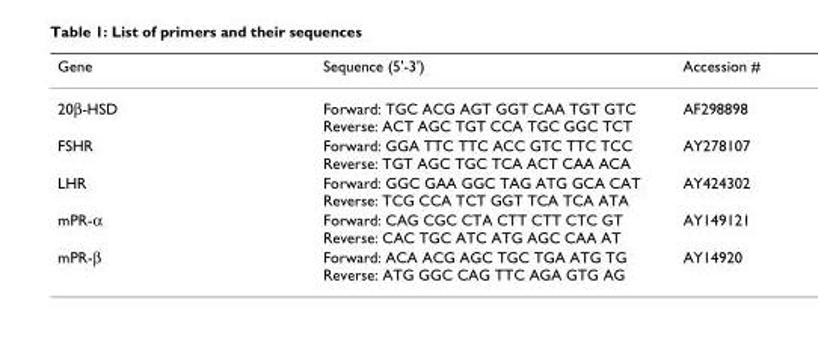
<table><thead><tr><td>Gene</td><td>Sequence (5&#x27;-3&#x27;)</td><td>Accession #</td></tr></thead><tbody><tr><td>20β-HSD</td><td>Forward: TGC ACG AGT GGT CAA TGT GTC Reverse: ACT AGC TGT CCA TGC GGC TCT</td><td>AF298898</td></tr><tr><td>FSHR</td><td>Forward: GGA TTC TTC ACC GTC TTC TCC Reverse: TGT AGC TGC TCA ACT CAA ACA</td><td>AY278107</td></tr><tr><td>LHR</td><td>Forward: GGC GAA GGC TAG ATG GCA CAT Reverse: TCG CCA TCT GGT TCA TCA ATA</td><td>AY424302</td></tr><tr><td>mPR-α</td><td>Forward: CAG CGC CTA CTT CTT CTC GT Reverse: CAC TGC ATC ATG AGC CAA AT</td><td>AY149121</td></tr><tr><td>mPR-β</td><td>Forward: ACA ACG AGC TGC TGA ATG TG Reverse: ATG GGC CAG TTC AGA GTG AG</td><td>AY14920</td></tr></tbody></table>